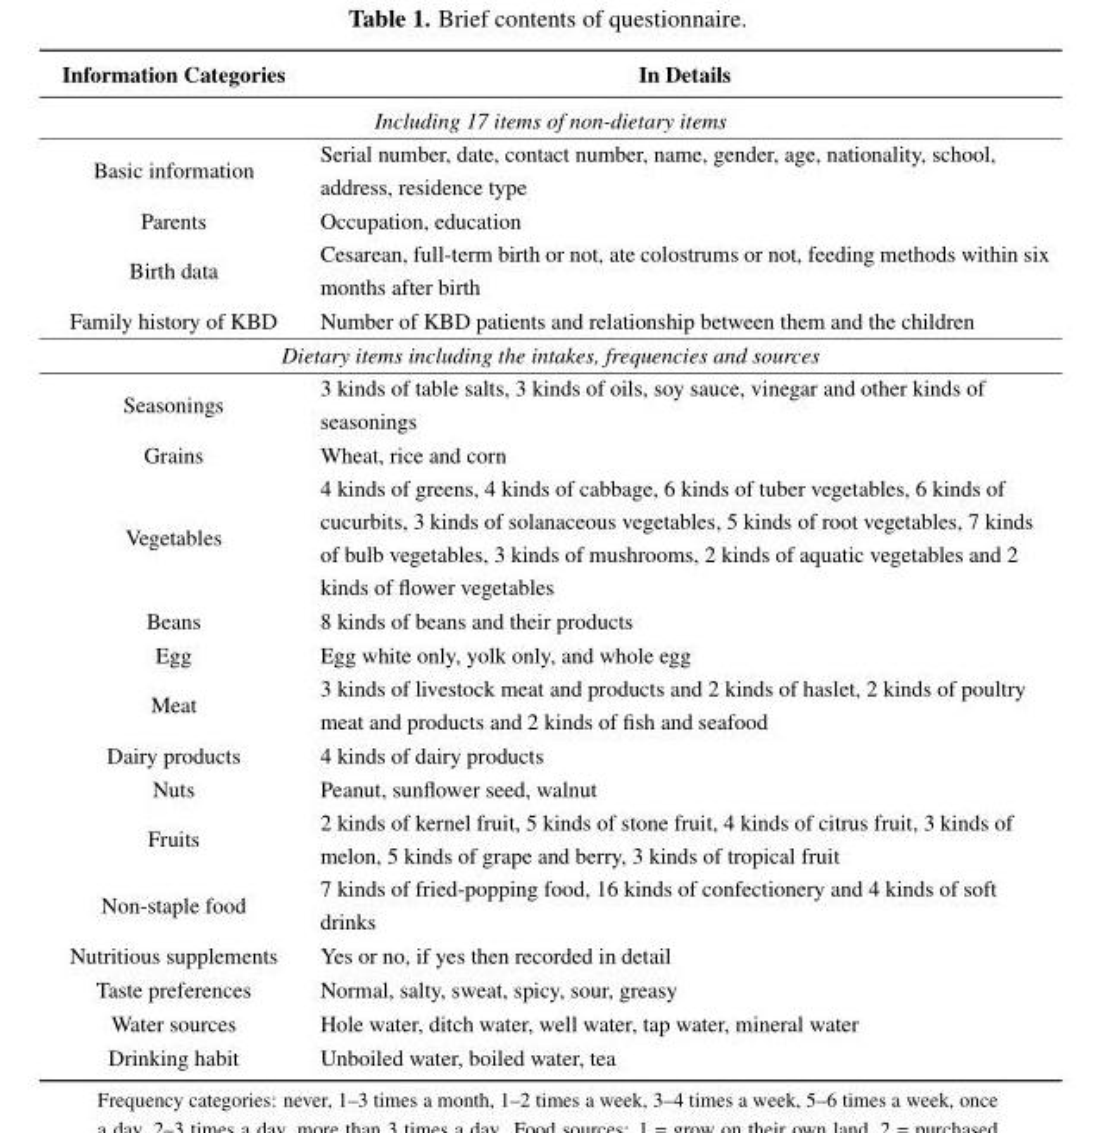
<table><thead><tr><td>Information Categories</td><td>In Details</td></tr></thead><tbody><tr><td colspan="2">Including 17 items of non-dietary items</td></tr><tr><td>Basic information</td><td>Serial number, date, contact number, name, gender, age, nationality, school, address, residence type</td></tr><tr><td>Parents</td><td>Occupation, education</td></tr><tr><td>Birth data</td><td>Cesarean, full-term birth or not, ate colostrums or not, feeding methods within six months after birth</td></tr><tr><td>Family history of KBD</td><td>Number of KBD patients and relationship between them and the children</td></tr><tr><td colspan="2">Dietary items including the intakes, frequencies and sources</td></tr><tr><td>Seasonings</td><td>3 kinds of table salts, 3 kinds of oils, soy sauce, vinegar and other kinds of seasonings</td></tr><tr><td>Grains</td><td>Wheat, rice and corn</td></tr><tr><td>Vegetables</td><td>4 kinds of greens, 4 kinds of cabbage, 6 kinds of tuber vegetables, 6 kinds of cucurbits, 3 kinds of solanaceous vegetables, 5 kinds of root vegetables, 7 kinds of bulb vegetables, 3 kinds of mushrooms, 2 kinds of aquatic vegetables and 2 kinds of flower vegetables</td></tr><tr><td>Beans</td><td>8 kinds of beans and their products</td></tr><tr><td>Egg</td><td>Egg white only, yolk only, and whole egg</td></tr><tr><td>Meat</td><td>3 kinds of livestock meat and products and 2 kinds of haslet, 2 kinds of poultry meat and products and 2 kinds of fish and seafood</td></tr><tr><td>Dairy products</td><td>4 kinds of dairy products</td></tr><tr><td>Nuts</td><td>Peanut, sunflower seed, walnut</td></tr><tr><td>Fruits</td><td>2 kinds of kernel fruit, 5 kinds of stone fruit, 4 kinds of citrus fruit, 3 kinds of melon, 5 kinds of grape and berry, 3 kinds of tropical fruit</td></tr><tr><td>Non-staple food</td><td>7 kinds of fried-popping food, 16 kinds of confectionery and 4 kinds of soft drinks</td></tr><tr><td>Nutritious supplements</td><td>Yes or no, if yes then recorded in detail</td></tr><tr><td>Taste preferences</td><td>Normal, salty, sweat, spicy, sour, greasy</td></tr><tr><td>Water sources</td><td>Hole water, ditch water, well water, tap water, mineral water</td></tr><tr><td>Drinking habit</td><td>Unboiled water, boiled water, tea</td></tr></tbody></table>